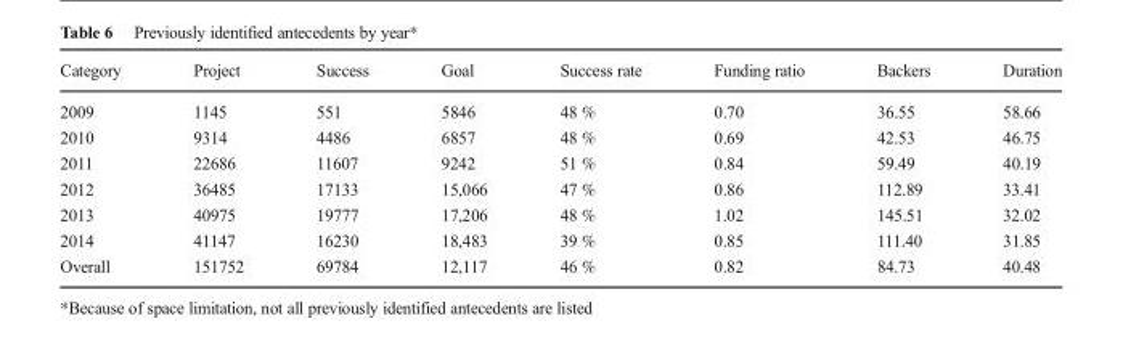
<table><thead><tr><td>Category</td><td>Project</td><td>Success</td><td>Goal</td><td>Success rate</td><td>Funding ratio</td><td>Backers</td><td>Duration</td></tr></thead><tbody><tr><td>2009</td><td>1145</td><td>551</td><td>5846</td><td>48 %</td><td>0.70</td><td>36.55</td><td>58.66</td></tr><tr><td>2010</td><td>9314</td><td>4486</td><td>6857</td><td>48 %</td><td>0.69</td><td>42.53</td><td>46.75</td></tr><tr><td>2011</td><td>22686</td><td>11607</td><td>9242</td><td>51 %</td><td>0.84</td><td>59.49</td><td>40.19</td></tr><tr><td>2012</td><td>36485</td><td>17133</td><td>15,066</td><td>47 %</td><td>0.86</td><td>112.89</td><td>33.41</td></tr><tr><td>2013</td><td>40975</td><td>19777</td><td>17,206</td><td>48 %</td><td>1.02</td><td>145.51</td><td>32.02</td></tr><tr><td>2014</td><td>41147</td><td>16230</td><td>18,483</td><td>39 %</td><td>0.85</td><td>111.40</td><td>31.85</td></tr><tr><td>Overall</td><td>151752</td><td>69784</td><td>12,117</td><td>46 %</td><td>0.82</td><td>84.73</td><td>40.48</td></tr></tbody></table>